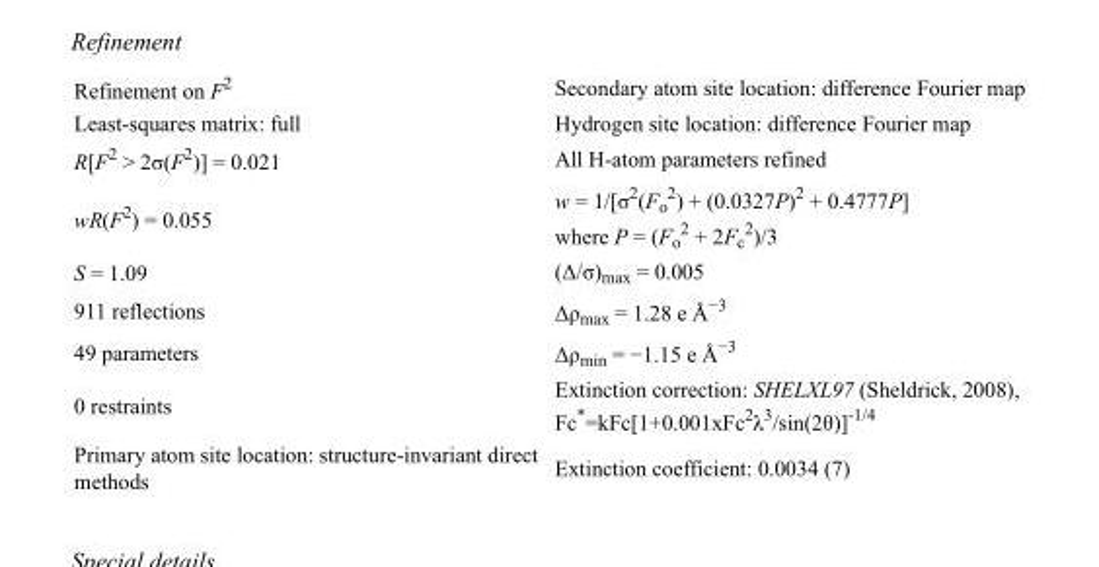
<table><tbody><tr><td>Refinement on F<sup>2</sup></td><td>Secondary atom site location: difference Fourier map</td></tr><tr><td>Least-squares matrix: full</td><td>Hydrogen site location: difference Fourier map</td></tr><tr><td>R[F<sup>2</sup> &gt; 2σ(F<sup>2</sup>)] = 0.021</td><td>All H-atom parameters refined</td></tr><tr><td>wR(F<sup>2</sup>) = 0.055</td><td>w = 1/[σ<sup>2</sup>(F<sub>o</sub> <sup>2</sup>) + (0.0327P)<sup>2</sup> + 0.4777P] where P = (F<sub>o</sub> <sup>2</sup> + 2F<sub>c</sub> <sup>2</sup>)/3</td></tr><tr><td>S = 1.09</td><td>(Δ/σ)<sub>max</sub> = 0.005</td></tr><tr><td>911 reflections</td><td>Δρ<sub>max</sub> = 1.28 e Å<sup>−3</sup></td></tr><tr><td>49 parameters</td><td>Δρ<sub>min</sub> = −1.15 e Å<sup>−3</sup></td></tr><tr><td>0 restraints</td><td>Extinction correction: SHELXL97 (Sheldrick, 2008), Fc*=kFc[1+0.001xFc<sup>2</sup>λ<sup>3</sup>/sin(2θ)]<sup>-1/4</sup></td></tr><tr><td>Primary atom site location: structure-invariant direct methods</td><td>Extinction coefficient: 0.0034 (7)</td></tr></tbody></table>